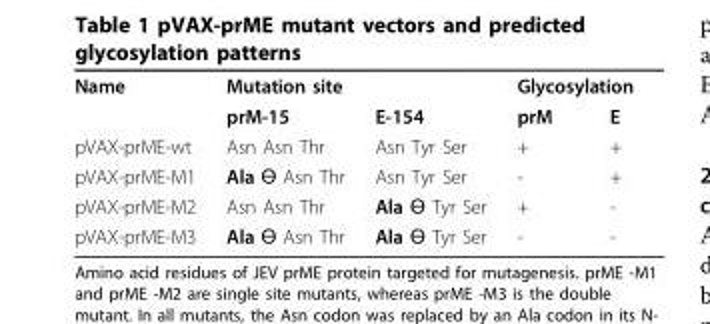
<table><tbody><tr><td rowspan="2">Name</td><td colspan="2">Mutation site</td><td colspan="2">Glycosylation</td></tr><tr><td>prM-15</td><td>E-154</td><td>prM</td><td>E</td></tr><tr><td>pVAX-prME-wt</td><td>Asn Asn Thr</td><td>Asn Tyr Ser</td><td>+</td><td>+</td></tr><tr><td>pVAX-prME-M1</td><td>Ala Ɵ Asn Thr</td><td>Asn Tyr Ser</td><td>-</td><td>+</td></tr><tr><td>pVAX-prME-M2</td><td>Asn Asn Thr</td><td>Ala Ɵ Tyr Ser</td><td>+</td><td>-</td></tr><tr><td>pVAX-prME-M3</td><td>Ala Ɵ Asn Thr</td><td>Ala Ɵ Tyr Ser</td><td>-</td><td>-</td></tr></tbody></table>